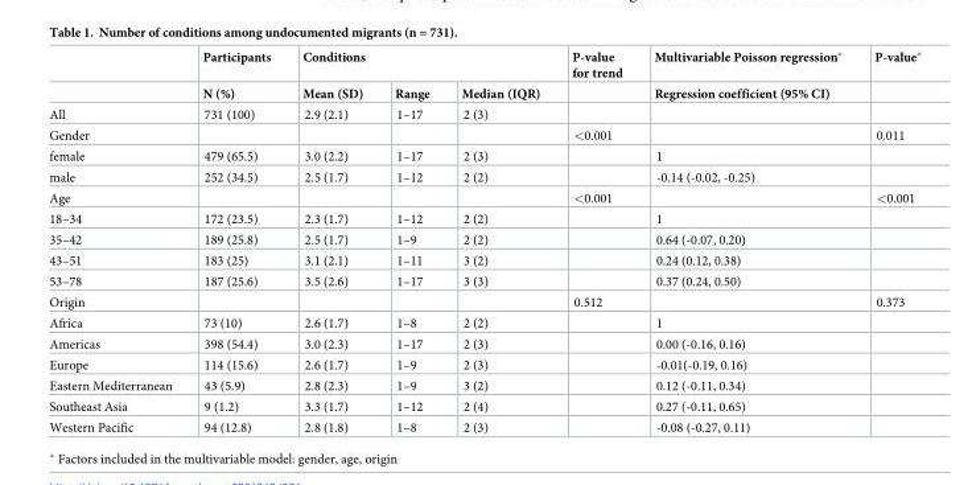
<table><thead><tr><td rowspan="2"></td><td rowspan="2">Participants N (%)</td><td colspan="3">Conditions</td><td rowspan="2">P-value for trend</td><td rowspan="2">Multivariable Poisson regression* Regression coefficient (95% CI)</td><td rowspan="2">P-value*</td></tr><tr><td>Mean (SD)</td><td>Range</td><td>Median (IQR)</td></tr></thead><tbody><tr><td>All</td><td>731 (100)</td><td>2.9 (2.1)</td><td>1–17</td><td>2 (3)</td><td></td><td></td><td></td></tr><tr><td>Gender</td><td></td><td></td><td></td><td></td><td>&lt;0.001</td><td></td><td>0.011</td></tr><tr><td>female</td><td>479 (65.5)</td><td>3.0 (2.2)</td><td>1–17</td><td>2 (3)</td><td></td><td>1</td><td></td></tr><tr><td>male</td><td>252 (34.5)</td><td>2.5 (1.7)</td><td>1–12</td><td>2 (2)</td><td></td><td>-0.14 (-0.02, -0.25)</td><td></td></tr><tr><td>Age</td><td></td><td></td><td></td><td></td><td>&lt;0.001</td><td></td><td>&lt;0.001</td></tr><tr><td>18–34</td><td>172 (23.5)</td><td>2.3 (1.7)</td><td>1–12</td><td>2 (2)</td><td></td><td>1</td><td></td></tr><tr><td>35–42</td><td>189 (25.8)</td><td>2.5 (1.7)</td><td>1–9</td><td>2 (2)</td><td></td><td>0.64 (-0.07, 0.20)</td><td></td></tr><tr><td>43–51</td><td>183 (25)</td><td>3.1 (2.1)</td><td>1–11</td><td>3 (2)</td><td></td><td>0.24 (0.12, 0.38)</td><td></td></tr><tr><td>53–78</td><td>187 (25.6)</td><td>3.5 (2.6)</td><td>1–17</td><td>3 (3)</td><td></td><td>0.37 (0.24, 0.50)</td><td></td></tr><tr><td>Origin</td><td></td><td></td><td></td><td></td><td>0.512</td><td></td><td>0.373</td></tr><tr><td>Africa</td><td>73 (10)</td><td>2.6 (1.7)</td><td>1–8</td><td>2 (2)</td><td></td><td>1</td><td></td></tr><tr><td>Americas</td><td>398 (54.4)</td><td>3.0 (2.3)</td><td>1–17</td><td>2 (3)</td><td></td><td>0.00 (-0.16, 0.16)</td><td></td></tr><tr><td>Europe</td><td>114 (15.6)</td><td>2.6 (1.7)</td><td>1–9</td><td>2 (3)</td><td></td><td>-0.01(-0.19, 0.16)</td><td></td></tr><tr><td>Eastern Mediterranean</td><td>43 (5.9)</td><td>2.8 (2.3)</td><td>1–9</td><td>3 (2)</td><td></td><td>0.12 (-0.11, 0.34)</td><td></td></tr><tr><td>Southeast Asia</td><td>9 (1.2)</td><td>3.3 (1.7)</td><td>1–12</td><td>2 (4)</td><td></td><td>0.27 (-0.11, 0.65)</td><td></td></tr><tr><td>Western Pacific</td><td>94 (12.8)</td><td>2.8 (1.8)</td><td>1–8</td><td>2 (3)</td><td></td><td>-0.08 (-0.27, 0.11)</td><td></td></tr></tbody></table>